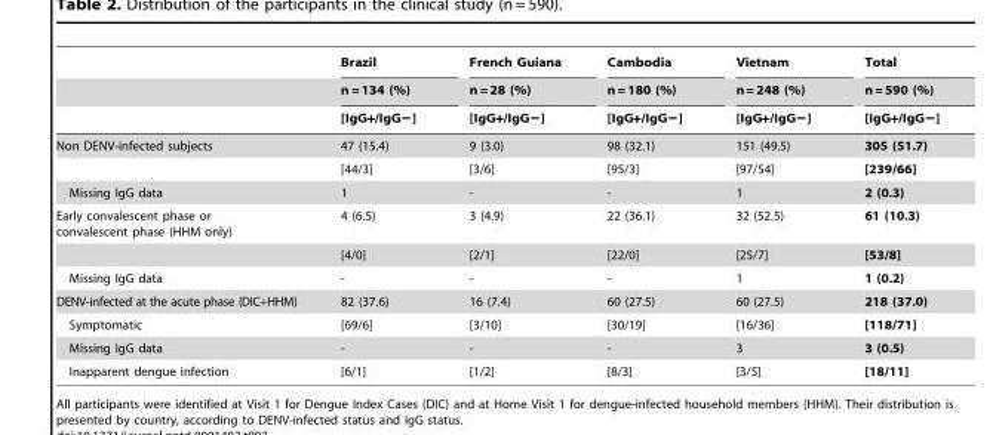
<table><thead><tr><td rowspan="3"></td><td rowspan="3">Brazil n = 134 (%) [IgG+/IgG−]</td><td rowspan="3">French Guiana n = 28 (%) [IgG+/IgG−]</td><td rowspan="3">Cambodia n = 180 (%) [IgG+/IgG−]</td><td rowspan="3">Vietnam n = 248 (%) [IgG+/IgG−]</td><td rowspan="3">Total n = 590 (%) [IgG+/IgG−]</td></tr><tr></tr><tr></tr></thead><tbody><tr><td rowspan="2">Non DENV-infected subjects</td><td>47 (15.4)</td><td>9 (3.0)</td><td>98 (32.1)</td><td>151 (49.5)</td><td>305 (51.7)</td></tr><tr><td>[44/3]</td><td>[3/6]</td><td>[95/3]</td><td>[97/54]</td><td>[239/66]</td></tr><tr><td>Missing IgG data</td><td>1</td><td>-</td><td>-</td><td>1</td><td>2 (0.3)</td></tr><tr><td rowspan="2">Early convalescent phase or convalescent phase (HHM only)</td><td>4 (6.5)</td><td>3 (4.9)</td><td>22 (36.1)</td><td>32 (52.5)</td><td>61 (10.3)</td></tr><tr><td>[4/0]</td><td>[2/1]</td><td>[22/0]</td><td>[25/7]</td><td>[53/8]</td></tr><tr><td>Missing IgG data</td><td>-</td><td>-</td><td>-</td><td>1</td><td>1 (0.2)</td></tr><tr><td>DENV-infected at the acute phase (DIC+HHM)</td><td>82 (37.6)</td><td>16 (7.4)</td><td>60 (27.5)</td><td>60 (27.5)</td><td>218 (37.0)</td></tr><tr><td>Symptomatic</td><td>[69/6]</td><td>[3/10]</td><td>[30/19]</td><td>[16/36]</td><td>[118/71]</td></tr><tr><td>Missing IgG data</td><td>-</td><td>-</td><td>-</td><td>3</td><td>3 (0.5)</td></tr><tr><td>Inapparent dengue infection</td><td>[6/1]</td><td>[1/2]</td><td>[8/3]</td><td>[3/5]</td><td>[18/11]</td></tr></tbody></table>